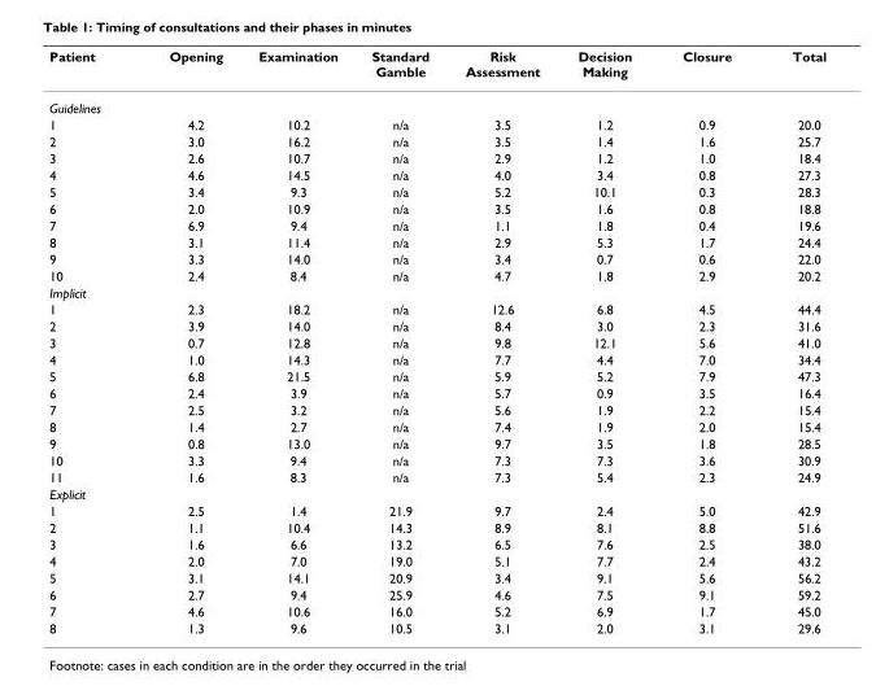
<table><thead><tr><td>Patient</td><td>Opening</td><td>Examination</td><td>Standard Gamble</td><td>Risk Assessment</td><td>Decision Making</td><td>Closure</td><td>Total</td></tr></thead><tbody><tr><td colspan="8">Guidelines</td></tr><tr><td>1</td><td>4.2</td><td>10.2</td><td>n/a</td><td>3.5</td><td>1.2</td><td>0.9</td><td>20.0</td></tr><tr><td>2</td><td>3.0</td><td>16.2</td><td>n/a</td><td>3.5</td><td>1.4</td><td>1.6</td><td>25.7</td></tr><tr><td>3</td><td>2.6</td><td>10.7</td><td>n/a</td><td>2.9</td><td>1.2</td><td>1.0</td><td>18.4</td></tr><tr><td>4</td><td>4.6</td><td>14.5</td><td>n/a</td><td>4.0</td><td>3.4</td><td>0.8</td><td>27.3</td></tr><tr><td>5</td><td>3.4</td><td>9.3</td><td>n/a</td><td>5.2</td><td>10.1</td><td>0.3</td><td>28.3</td></tr><tr><td>6</td><td>2.0</td><td>10.9</td><td>n/a</td><td>3.5</td><td>1.6</td><td>0.8</td><td>18.8</td></tr><tr><td>7</td><td>6.9</td><td>9.4</td><td>n/a</td><td>1.1</td><td>1.8</td><td>0.4</td><td>19.6</td></tr><tr><td>8</td><td>3.1</td><td>11.4</td><td>n/a</td><td>2.9</td><td>5.3</td><td>1.7</td><td>24.4</td></tr><tr><td>9</td><td>3.3</td><td>14.0</td><td>n/a</td><td>3.4</td><td>0.7</td><td>0.6</td><td>22.0</td></tr><tr><td>10</td><td>2.4</td><td>8.4</td><td>n/a</td><td>4.7</td><td>1.8</td><td>2.9</td><td>20.2</td></tr><tr><td colspan="8">Implicit</td></tr><tr><td>1</td><td>2.3</td><td>18.2</td><td>n/a</td><td>12.6</td><td>6.8</td><td>4.5</td><td>44.4</td></tr><tr><td>2</td><td>3.9</td><td>14.0</td><td>n/a</td><td>8.4</td><td>3.0</td><td>2.3</td><td>31.6</td></tr><tr><td>3</td><td>0.7</td><td>12.8</td><td>n/a</td><td>9.8</td><td>12.1</td><td>5.6</td><td>41.0</td></tr><tr><td>4</td><td>1.0</td><td>14.3</td><td>n/a</td><td>7.7</td><td>4.4</td><td>7.0</td><td>34.4</td></tr><tr><td>5</td><td>6.8</td><td>21.5</td><td>n/a</td><td>5.9</td><td>5.2</td><td>7.9</td><td>47.3</td></tr><tr><td>6</td><td>2.4</td><td>3.9</td><td>n/a</td><td>5.7</td><td>0.9</td><td>3.5</td><td>16.4</td></tr><tr><td>7</td><td>2.5</td><td>3.2</td><td>n/a</td><td>5.6</td><td>1.9</td><td>2.2</td><td>15.4</td></tr><tr><td>8</td><td>1.4</td><td>2.7</td><td>n/a</td><td>7.4</td><td>1.9</td><td>2.0</td><td>15.4</td></tr><tr><td>9</td><td>0.8</td><td>13.0</td><td>n/a</td><td>9.7</td><td>3.5</td><td>1.8</td><td>28.5</td></tr><tr><td>10</td><td>3.3</td><td>9.4</td><td>n/a</td><td>7.3</td><td>7.3</td><td>3.6</td><td>30.9</td></tr><tr><td>11</td><td>1.6</td><td>8.3</td><td>n/a</td><td>7.3</td><td>5.4</td><td>2.3</td><td>24.9</td></tr><tr><td colspan="8">Explicit</td></tr><tr><td>1</td><td>2.5</td><td>1.4</td><td>21.9</td><td>9.7</td><td>2.4</td><td>5.0</td><td>42.9</td></tr><tr><td>2</td><td>1.1</td><td>10.4</td><td>14.3</td><td>8.9</td><td>8.1</td><td>8.8</td><td>51.6</td></tr><tr><td>3</td><td>1.6</td><td>6.6</td><td>13.2</td><td>6.5</td><td>7.6</td><td>2.5</td><td>38.0</td></tr><tr><td>4</td><td>2.0</td><td>7.0</td><td>19.0</td><td>5.1</td><td>7.7</td><td>2.4</td><td>43.2</td></tr><tr><td>5</td><td>3.1</td><td>14.1</td><td>20.9</td><td>3.4</td><td>9.1</td><td>5.6</td><td>56.2</td></tr><tr><td>6</td><td>2.7</td><td>9.4</td><td>25.9</td><td>4.6</td><td>7.5</td><td>9.1</td><td>59.2</td></tr><tr><td>7</td><td>4.6</td><td>10.6</td><td>16.0</td><td>5.2</td><td>6.9</td><td>1.7</td><td>45.0</td></tr><tr><td>8</td><td>1.3</td><td>9.6</td><td>10.5</td><td>3.1</td><td>2.0</td><td>3.1</td><td>29.6</td></tr></tbody></table>